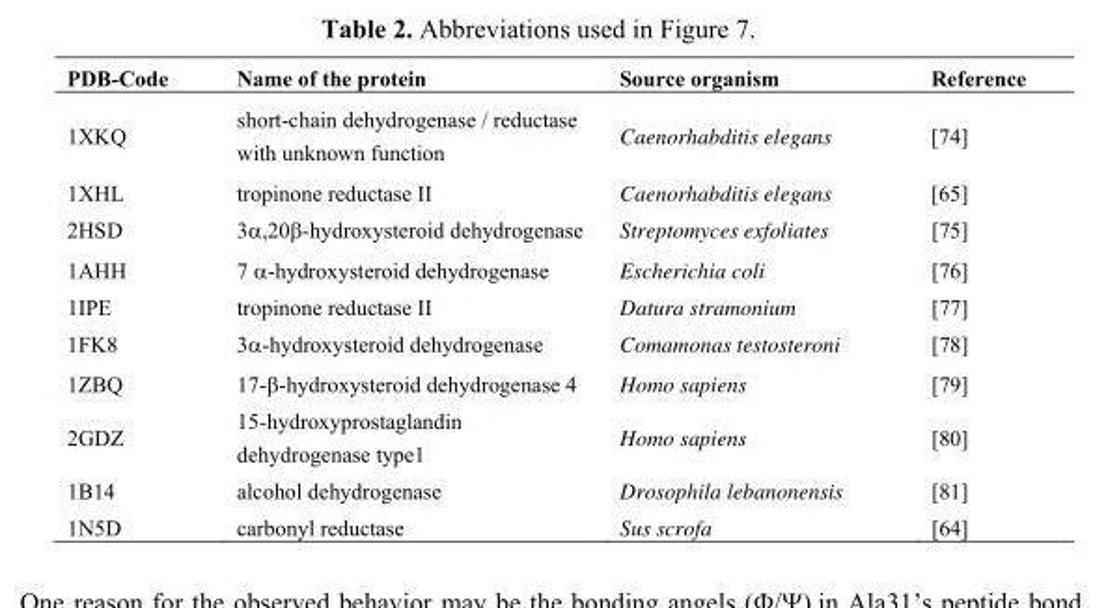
<table><thead><tr><td>PDB-Code</td><td>Name of the protein</td><td>Source organism</td><td>Reference</td></tr></thead><tbody><tr><td>1XKQ</td><td>short-chain dehydrogenase / reductase with unknown function</td><td>Caenorhabditis elegans</td><td>[74]</td></tr><tr><td>1XHL</td><td>tropinone reductase II</td><td>Caenorhabditis elegans</td><td>[65]</td></tr><tr><td>2HSD</td><td>3α,20β-hydroxysteroid dehydrogenase</td><td>Streptomyces exfoliates</td><td>[75]</td></tr><tr><td>1AHH</td><td>7 α-hydroxysteroid dehydrogenase</td><td>Escherichia coli</td><td>[76]</td></tr><tr><td>1IPE</td><td>tropinone reductase II</td><td>Datura stramonium</td><td>[77]</td></tr><tr><td>1FK8</td><td>3-hydroxysteroid dehydrogenase</td><td>Comamonas testosteroni</td><td>[78]</td></tr><tr><td>1ZBQ</td><td>17-β-hydroxysteroid dehydrogenase 4</td><td>Homo sapiens</td><td>[79]</td></tr><tr><td>2GDZ</td><td>15-hydroxyprostaglandin dehydrogenase type1</td><td>Homo sapiens</td><td>[80]</td></tr><tr><td>1B14</td><td>alcohol dehydrogenase</td><td>Drosophila lebanonensis</td><td>[81]</td></tr><tr><td>1N5D</td><td>carbonyl reductase</td><td>Sus scrofa</td><td>[64]</td></tr></tbody></table>